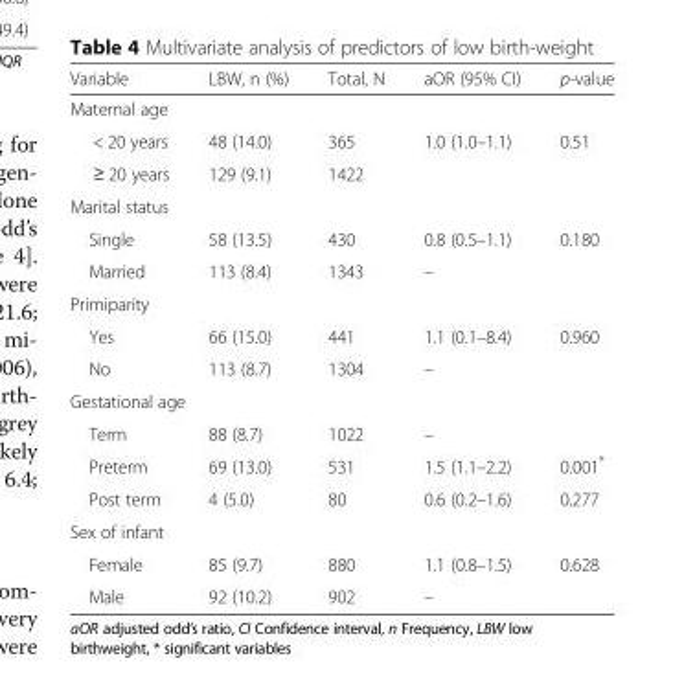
<table><thead><tr><td>Variable</td><td>LBW, n (%)</td><td>Total, N</td><td>aOR (95% CI)</td><td>p-value</td></tr></thead><tbody><tr><td colspan="5">Maternal age</td></tr><tr><td>&lt; 20 years</td><td>48 (14.0)</td><td>365</td><td>1.0 (1.0–1.1)</td><td>0.51</td></tr><tr><td>≥ 20 years</td><td>129 (9.1)</td><td>1422</td><td></td><td></td></tr><tr><td colspan="5">Marital status</td></tr><tr><td>Single</td><td>58 (13.5)</td><td>430</td><td>0.8 (0.5–1.1)</td><td>0.180</td></tr><tr><td>Married</td><td>113 (8.4)</td><td>1343</td><td>–</td><td></td></tr><tr><td colspan="5">Primiparity</td></tr><tr><td>Yes</td><td>66 (15.0)</td><td>441</td><td>1.1 (0.1–8.4)</td><td>0.960</td></tr><tr><td>No</td><td>113 (8.7)</td><td>1304</td><td>–</td><td></td></tr><tr><td colspan="5">Gestational age</td></tr><tr><td>Term</td><td>88 (8.7)</td><td>1022</td><td>–</td><td></td></tr><tr><td>Preterm</td><td>69 (13.0)</td><td>531</td><td>1.5 (1.1–2.2)</td><td>0.001*</td></tr><tr><td>Post term</td><td>4 (5.0)</td><td>80</td><td>0.6 (0.2–1.6)</td><td>0.277</td></tr><tr><td colspan="5">Sex of infant</td></tr><tr><td>Female</td><td>85 (9.7)</td><td>880</td><td>1.1 (0.8–1.5)</td><td>0.628</td></tr><tr><td>Male</td><td>92 (10.2)</td><td>902</td><td>–</td><td></td></tr></tbody></table>